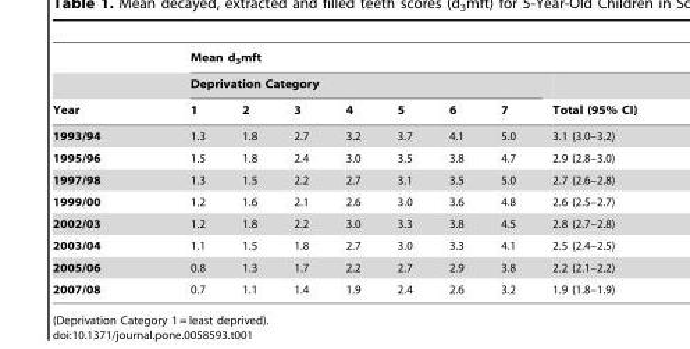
<table><thead><tr><td rowspan="3">Year</td><td colspan="8">Mean d<sub>3</sub>mft</td></tr><tr><td colspan="7">Deprivation Category</td><td rowspan="2">Total (95% CI)</td></tr><tr><td>1</td><td>2</td><td>3</td><td>4</td><td>5</td><td>6</td><td>7</td></tr></thead><tbody><tr><td>1993/94</td><td>1.3</td><td>1.8</td><td>2.7</td><td>3.2</td><td>3.7</td><td>4.1</td><td>5.0</td><td>3.1 (3.0–3.2)</td></tr><tr><td>1995/96</td><td>1.5</td><td>1.8</td><td>2.4</td><td>3.0</td><td>3.5</td><td>3.8</td><td>4.7</td><td>2.9 (2.8–3.0)</td></tr><tr><td>1997/98</td><td>1.3</td><td>1.5</td><td>2.2</td><td>2.7</td><td>3.1</td><td>3.5</td><td>5.0</td><td>2.7 (2.6–2.8)</td></tr><tr><td>1999/00</td><td>1.2</td><td>1.6</td><td>2.1</td><td>2.6</td><td>3.0</td><td>3.6</td><td>4.8</td><td>2.6 (2.5–2.7)</td></tr><tr><td>2002/03</td><td>1.2</td><td>1.8</td><td>2.2</td><td>3.0</td><td>3.3</td><td>3.8</td><td>4.5</td><td>2.8 (2.7–2.8)</td></tr><tr><td>2003/04</td><td>1.1</td><td>1.5</td><td>1.8</td><td>2.7</td><td>3.0</td><td>3.3</td><td>4.1</td><td>2.5 (2.4–2.5)</td></tr><tr><td>2005/06</td><td>0.8</td><td>1.3</td><td>1.7</td><td>2.2</td><td>2.7</td><td>2.9</td><td>3.8</td><td>2.2 (2.1–2.2)</td></tr><tr><td>2007/08</td><td>0.7</td><td>1.1</td><td>1.4</td><td>1.9</td><td>2.4</td><td>2.6</td><td>3.2</td><td>1.9 (1.8–1.9)</td></tr></tbody></table>